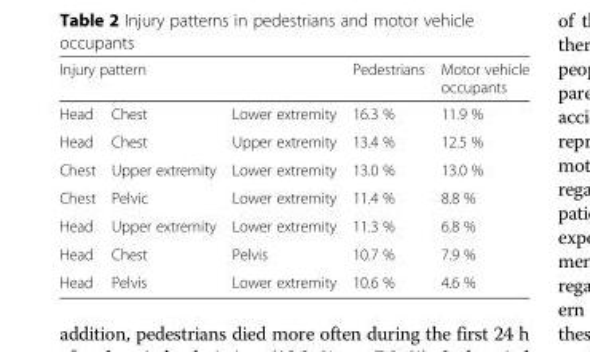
<table><thead><tr><td colspan="3">Injury pattern</td><td rowspan="2">Pedestrians 16.3 %</td><td rowspan="2">Motor vehicle occupants 11.9 %</td></tr><tr><td>Head</td><td>Chest</td><td>Lower extremity</td></tr></thead><tbody><tr><td>Head</td><td>Chest</td><td>Upper extremity</td><td>13.4 %</td><td>12.5 %</td></tr><tr><td>Chest</td><td>Upper extremity</td><td>Lower extremity</td><td>13.0 %</td><td>13.0 %</td></tr><tr><td>Chest</td><td>Pelvic</td><td>Lower extremity</td><td>11.4 %</td><td>8.8 %</td></tr><tr><td>Head</td><td>Upper extremity</td><td>Lower extremity</td><td>11.3 %</td><td>6.8 %</td></tr><tr><td>Head</td><td>Chest</td><td>Pelvis</td><td>10.7 %</td><td>7.9 %</td></tr><tr><td>Head</td><td>Pelvis</td><td>Lower extremity</td><td>10.6 %</td><td>4.6 %</td></tr></tbody></table>